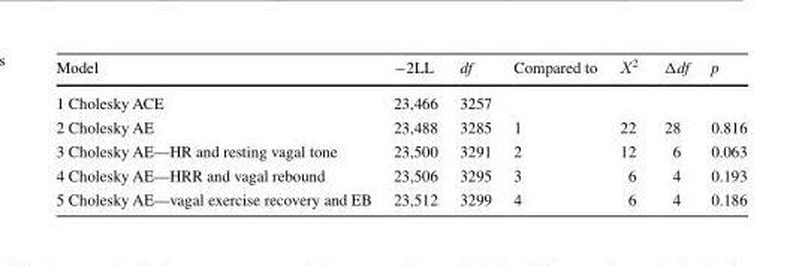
<table><thead><tr><td>Model</td><td>−2LL</td><td>df</td><td>Compared to</td><td>Χ<sup>2</sup></td><td>Δdf</td><td>p</td></tr></thead><tbody><tr><td>1 Cholesky ACE</td><td>23,466</td><td>3257</td><td></td><td></td><td></td><td></td></tr><tr><td>2 Cholesky AE</td><td>23,488</td><td>3285</td><td>1</td><td>22</td><td>28</td><td>0.816</td></tr><tr><td>3 Cholesky AE—HR and resting vagal tone</td><td>23,500</td><td>3291</td><td>2</td><td>12</td><td>6</td><td>0.063</td></tr><tr><td>4 Cholesky AE—HRR and vagal rebound</td><td>23,506</td><td>3295</td><td>3</td><td>6</td><td>4</td><td>0.193</td></tr><tr><td>5 Cholesky AE—vagal exercise recovery and EB</td><td>23,512</td><td>3299</td><td>4</td><td>6</td><td>4</td><td>0.186</td></tr></tbody></table>